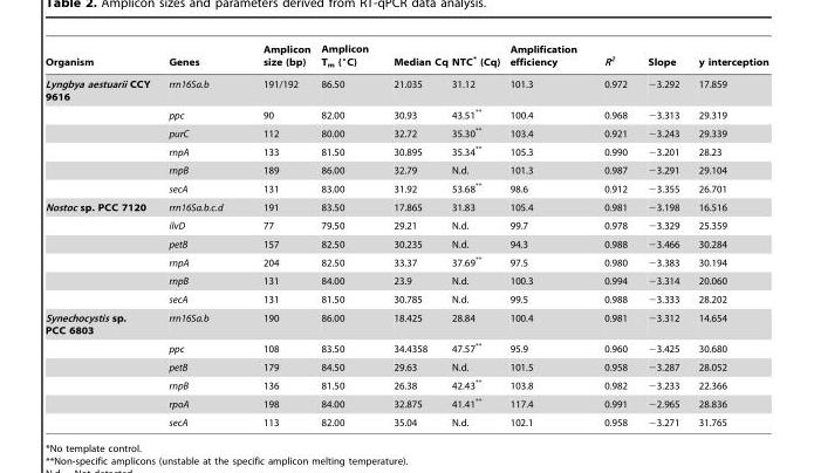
<table><thead><tr><td>Organism</td><td>Genes</td><td>Amplicon size (bp)</td><td>Amplicon T<sub>m</sub> (°C)</td><td>Median Cq</td><td>NTC* (Cq)</td><td>Amplification efficiency</td><td>R<sup>2</sup></td><td>Slope</td><td>y interception</td></tr></thead><tbody><tr><td rowspan="6">Lyngbya aestuarii CCY 9616</td><td>rrn16Sa.b</td><td>191/192</td><td>86.50</td><td>21.035</td><td>31.12</td><td>101.3</td><td>0.972</td><td>−3.292</td><td>17.859</td></tr><tr><td>ppc</td><td>90</td><td>82.00</td><td>30.93</td><td>43.51**</td><td>100.4</td><td>0.968</td><td>−3.313</td><td>29.319</td></tr><tr><td>purC</td><td>112</td><td>80.00</td><td>32.72</td><td>35.30**</td><td>103.4</td><td>0.921</td><td>−3.243</td><td>29.339</td></tr><tr><td>rnpA</td><td>133</td><td>81.50</td><td>30.895</td><td>35.34**</td><td>105.3</td><td>0.990</td><td>−3.201</td><td>28.23</td></tr><tr><td>rnpB</td><td>189</td><td>86.00</td><td>32.79</td><td>N.d.</td><td>101.3</td><td>0.987</td><td>−3.291</td><td>29.104</td></tr><tr><td>secA</td><td>131</td><td>83.00</td><td>31.92</td><td>53.68**</td><td>98.6</td><td>0.912</td><td>−3.355</td><td>26.701</td></tr><tr><td rowspan="6">Nostoc sp. PCC 7120</td><td>rrn16Sa.b.c.d</td><td>191</td><td>83.50</td><td>17.865</td><td>31.83</td><td>105.4</td><td>0.981</td><td>−3.198</td><td>16.516</td></tr><tr><td>ilvD</td><td>77</td><td>79.50</td><td>29.21</td><td>N.d.</td><td>99.7</td><td>0.978</td><td>−3.329</td><td>25.359</td></tr><tr><td>petB</td><td>157</td><td>82.50</td><td>30.235</td><td>N.d.</td><td>94.3</td><td>0.988</td><td>−3.466</td><td>30.284</td></tr><tr><td>rnpA</td><td>204</td><td>82.50</td><td>33.37</td><td>37.69**</td><td>97.5</td><td>0.980</td><td>−3.383</td><td>30.194</td></tr><tr><td>rnpB</td><td>131</td><td>84.00</td><td>23.9</td><td>N.d.</td><td>100.3</td><td>0.994</td><td>−3.314</td><td>20.060</td></tr><tr><td>secA</td><td>131</td><td>81.50</td><td>30.785</td><td>N.d.</td><td>99.5</td><td>0.988</td><td>−3.333</td><td>28.202</td></tr><tr><td rowspan="6">Synechocystis sp. PCC 6803</td><td>rrn16Sa.b</td><td>190</td><td>86.00</td><td>18.425</td><td>28.84</td><td>100.4</td><td>0.981</td><td>−3.312</td><td>14.654</td></tr><tr><td>ppc</td><td>108</td><td>83.50</td><td>34.4358</td><td>47.57**</td><td>95.9</td><td>0.960</td><td>−3.425</td><td>30.680</td></tr><tr><td>petB</td><td>179</td><td>84.50</td><td>29.63</td><td>N.d.</td><td>101.5</td><td>0.958</td><td>−3.287</td><td>28.052</td></tr><tr><td>rnpB</td><td>136</td><td>81.50</td><td>26.38</td><td>42.43**</td><td>103.8</td><td>0.982</td><td>−3.233</td><td>22.366</td></tr><tr><td>rpoA</td><td>198</td><td>84.00</td><td>32.875</td><td>41.41**</td><td>117.4</td><td>0.991</td><td>−2.965</td><td>28.836</td></tr><tr><td>secA</td><td>113</td><td>82.00</td><td>35.04</td><td>N.d.</td><td>102.1</td><td>0.958</td><td>−3.271</td><td>31.765</td></tr></tbody></table>